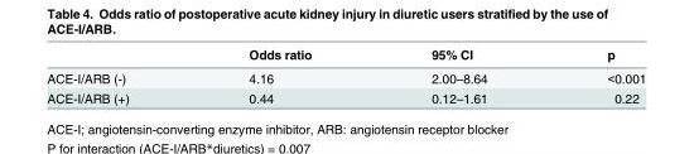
<table><thead><tr><td></td><td>Odds ratio</td><td>95% CI</td><td>p</td></tr></thead><tbody><tr><td>ACE-I/ARB (-)</td><td>4.16</td><td>2.00–8.64</td><td>&lt;0.001</td></tr><tr><td>ACE-I/ARB (+)</td><td>0.44</td><td>0.12–1.61</td><td>0.22</td></tr></tbody></table>